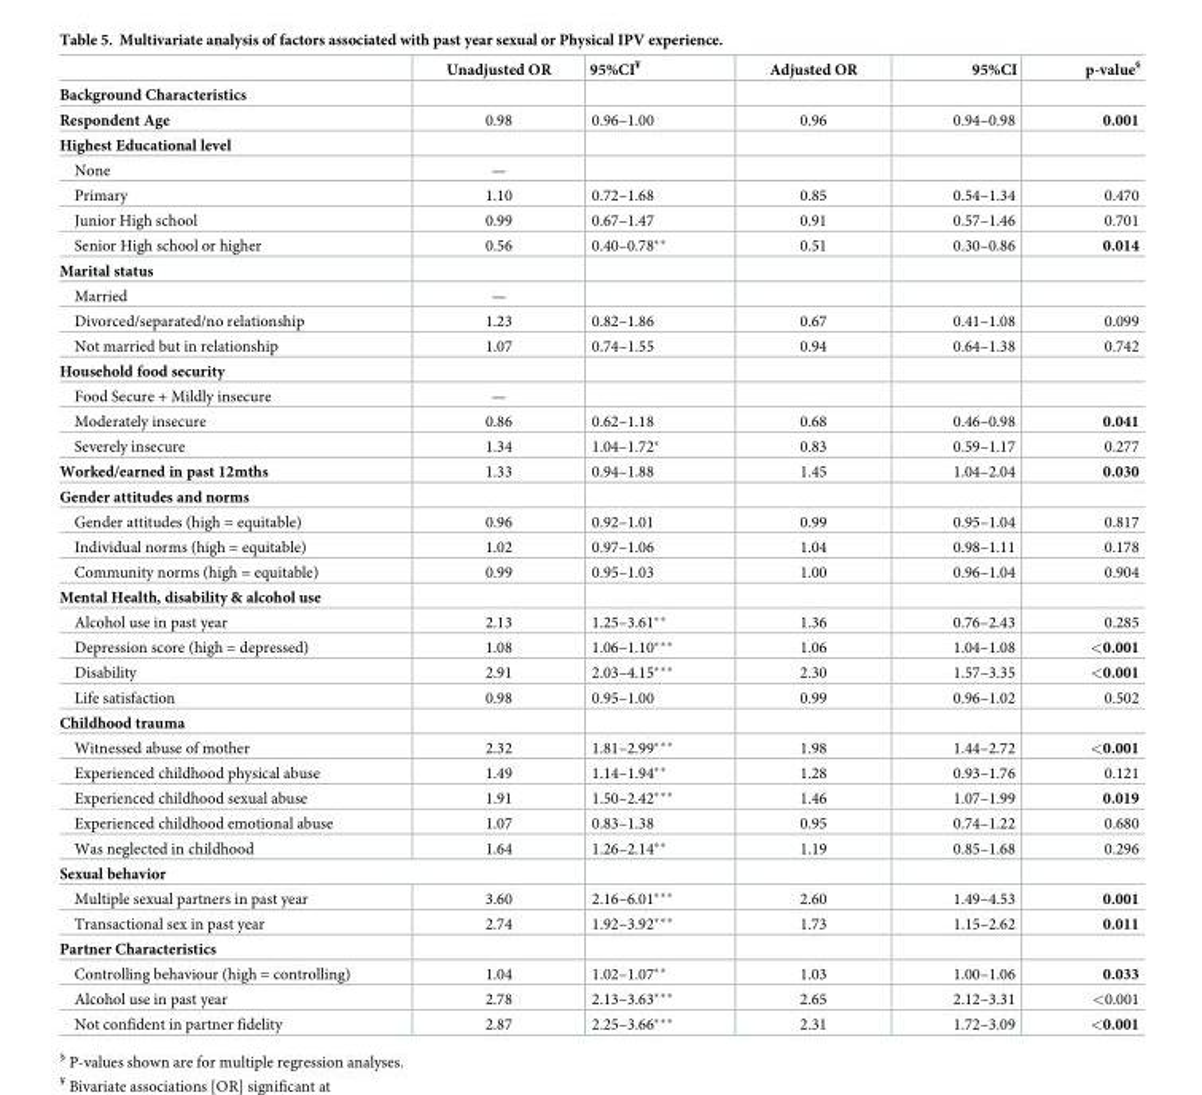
<table><thead><tr><td></td><td>Unadjusted OR</td><td>95%CI<sup>¥</sup></td><td>Adjusted OR</td><td>95%CI</td><td>p-value<sup>§</sup></td></tr></thead><tbody><tr><td colspan="6">Background Characteristics</td></tr><tr><td>Respondent Age</td><td>0.98</td><td>0.96–1.00</td><td>0.96</td><td>0.94–0.98</td><td>0.001</td></tr><tr><td colspan="6">Highest Educational level</td></tr><tr><td>None</td><td>—</td><td></td><td></td><td></td><td></td></tr><tr><td>Primary</td><td>1.10</td><td>0.72–1.68</td><td>0.85</td><td>0.54–1.34</td><td>0.470</td></tr><tr><td>Junior High school</td><td>0.99</td><td>0.67–1.47</td><td>0.91</td><td>0.57–1.46</td><td>0.701</td></tr><tr><td>Senior High school or higher</td><td>0.56</td><td>0.40–0.78**</td><td>0.51</td><td>0.30–0.86</td><td>0.014</td></tr><tr><td colspan="6">Marital status</td></tr><tr><td>Married</td><td>—</td><td></td><td></td><td></td><td></td></tr><tr><td>Divorced/separated/no relationship</td><td>1.23</td><td>0.82–1.86</td><td>0.67</td><td>0.41–1.08</td><td>0.099</td></tr><tr><td>Not married but in relationship</td><td>1.07</td><td>0.74–1.55</td><td>0.94</td><td>0.64–1.38</td><td>0.742</td></tr><tr><td colspan="6">Household food security</td></tr><tr><td>Food Secure + Mildly insecure</td><td>—</td><td></td><td></td><td></td><td></td></tr><tr><td>Moderately insecure</td><td>0.86</td><td>0.62–1.18</td><td>0.68</td><td>0.46–0.98</td><td>0.041</td></tr><tr><td>Severely insecure</td><td>1.34</td><td>1.04–1.72*</td><td>0.83</td><td>0.59–1.17</td><td>0.277</td></tr><tr><td>Worked/earned in past 12mths</td><td>1.33</td><td>0.94–1.88</td><td>1.45</td><td>1.04–2.04</td><td>0.030</td></tr><tr><td colspan="6">Gender attitudes and norms</td></tr><tr><td>Gender attitudes (high = equitable)</td><td>0.96</td><td>0.92–1.01</td><td>0.99</td><td>0.95–1.04</td><td>0.817</td></tr><tr><td>Individual norms (high = equitable)</td><td>1.02</td><td>0.97–1.06</td><td>1.04</td><td>0.98–1.11</td><td>0.178</td></tr><tr><td>Community norms (high = equitable)</td><td>0.99</td><td>0.95–1.03</td><td>1.00</td><td>0.96–1.04</td><td>0.904</td></tr><tr><td colspan="6">Mental Health, disability &amp; alcohol use</td></tr><tr><td>Alcohol use in past year</td><td>2.13</td><td>1.25–3.61**</td><td>1.36</td><td>0.76–2.43</td><td>0.285</td></tr><tr><td>Depression score (high = depressed)</td><td>1.08</td><td>1.06–1.10***</td><td>1.06</td><td>1.04–1.08</td><td>&lt;0.001</td></tr><tr><td>Disability</td><td>2.91</td><td>2.03–4.15***</td><td>2.30</td><td>1.57–3.35</td><td>&lt;0.001</td></tr><tr><td>Life satisfaction</td><td>0.98</td><td>0.95–1.00</td><td>0.99</td><td>0.96–1.02</td><td>0.502</td></tr><tr><td colspan="6">Childhood trauma</td></tr><tr><td>Witnessed abuse of mother</td><td>2.32</td><td>1.81–2.99***</td><td>1.98</td><td>1.44–2.72</td><td>&lt;0.001</td></tr><tr><td>Experienced childhood physical abuse</td><td>1.49</td><td>1.14–1.94**</td><td>1.28</td><td>0.93–1.76</td><td>0.121</td></tr><tr><td>Experienced childhood sexual abuse</td><td>1.91</td><td>1.50–2.42***</td><td>1.46</td><td>1.07–1.99</td><td>0.019</td></tr><tr><td>Experienced childhood emotional abuse</td><td>1.07</td><td>0.83–1.38</td><td>0.95</td><td>0.74–1.22</td><td>0.680</td></tr><tr><td>Was neglected in childhood</td><td>1.64</td><td>1.26–2.14**</td><td>1.19</td><td>0.85–1.68</td><td>0.296</td></tr><tr><td colspan="6">Sexual behavior</td></tr><tr><td>Multiple sexual partners in past year</td><td>3.60</td><td>2.16–6.01***</td><td>2.60</td><td>1.49–4.53</td><td>0.001</td></tr><tr><td>Transactional sex in past year</td><td>2.74</td><td>1.92–3.92***</td><td>1.73</td><td>1.15–2.62</td><td>0.011</td></tr><tr><td colspan="6">Partner Characteristics</td></tr><tr><td>Controlling behaviour (high = controlling)</td><td>1.04</td><td>1.02–1.07**</td><td>1.03</td><td>1.00–1.06</td><td>0.033</td></tr><tr><td>Alcohol use in past year</td><td>2.78</td><td>2.13–3.63***</td><td>2.65</td><td>2.12–3.31</td><td>&lt;0.001</td></tr><tr><td>Not confident in partner fidelity</td><td>2.87</td><td>2.25–3.66***</td><td>2.31</td><td>1.72–3.09</td><td>&lt;0.001</td></tr></tbody></table>